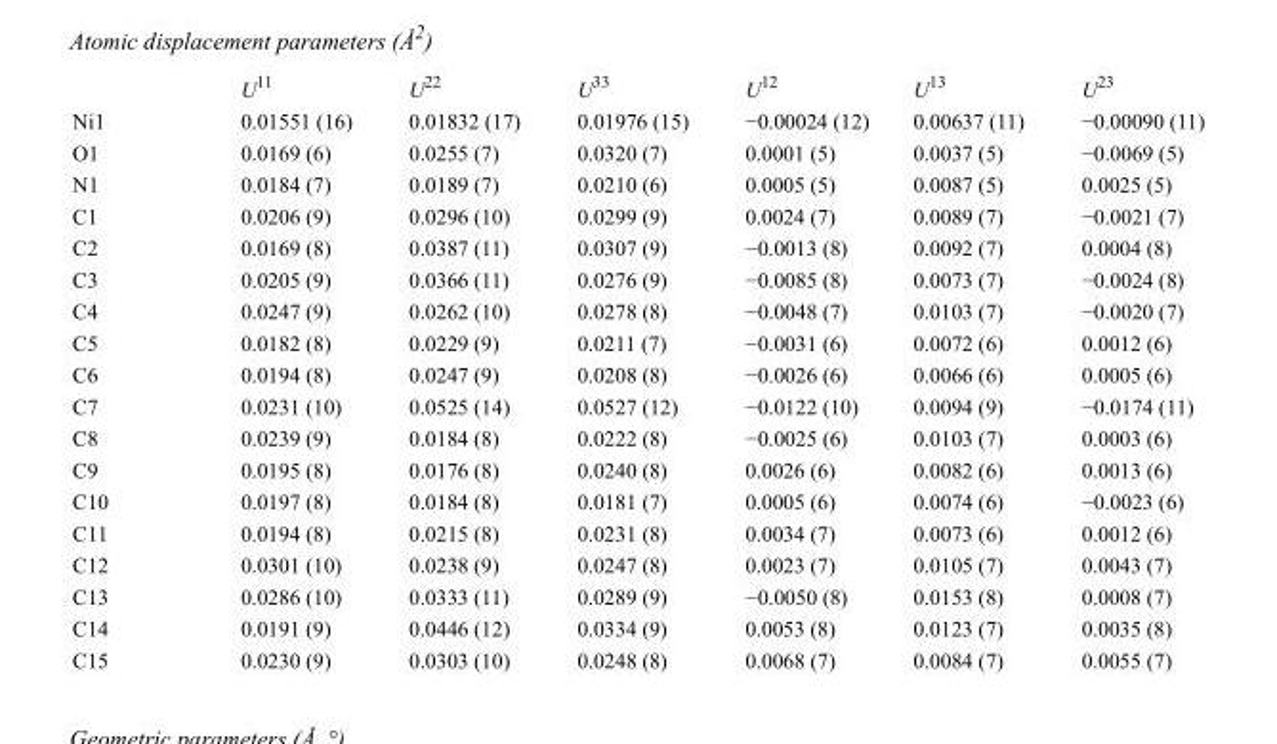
<table><thead><tr><td></td><td>U<sup>11</sup></td><td>U<sup>22</sup></td><td>U<sup>33</sup></td><td>U<sup>12</sup></td><td>U<sup>13</sup></td><td>U<sup>23</sup></td></tr></thead><tbody><tr><td>Ni1</td><td>0.01551 (16)</td><td>0.01832 (17)</td><td>0.01976 (15)</td><td>−0.00024 (12)</td><td>0.00637 (11)</td><td>−0.00090 (11)</td></tr><tr><td>O1</td><td>0.0169 (6)</td><td>0.0255 (7)</td><td>0.0320 (7)</td><td>0.0001 (5)</td><td>0.0037 (5)</td><td>−0.0069 (5)</td></tr><tr><td>N1</td><td>0.0184 (7)</td><td>0.0189 (7)</td><td>0.0210 (6)</td><td>0.0005 (5)</td><td>0.0087 (5)</td><td>0.0025 (5)</td></tr><tr><td>C1</td><td>0.0206 (9)</td><td>0.0296 (10)</td><td>0.0299 (9)</td><td>0.0024 (7)</td><td>0.0089 (7)</td><td>−0.0021 (7)</td></tr><tr><td>C2</td><td>0.0169 (8)</td><td>0.0387 (11)</td><td>0.0307 (9)</td><td>−0.0013 (8)</td><td>0.0092 (7)</td><td>0.0004 (8)</td></tr><tr><td>C3</td><td>0.0205 (9)</td><td>0.0366 (11)</td><td>0.0276 (9)</td><td>−0.0085 (8)</td><td>0.0073 (7)</td><td>−0.0024 (8)</td></tr><tr><td>C4</td><td>0.0247 (9)</td><td>0.0262 (10)</td><td>0.0278 (8)</td><td>−0.0048 (7)</td><td>0.0103 (7)</td><td>−0.0020 (7)</td></tr><tr><td>C5</td><td>0.0182 (8)</td><td>0.0229 (9)</td><td>0.0211 (7)</td><td>−0.0031 (6)</td><td>0.0072 (6)</td><td>0.0012 (6)</td></tr><tr><td>C6</td><td>0.0194 (8)</td><td>0.0247 (9)</td><td>0.0208 (8)</td><td>−0.0026 (6)</td><td>0.0066 (6)</td><td>0.0005 (6)</td></tr><tr><td>C7</td><td>0.0231 (10)</td><td>0.0525 (14)</td><td>0.0527 (12)</td><td>−0.0122 (10)</td><td>0.0094 (9)</td><td>−0.0174 (11)</td></tr><tr><td>C8</td><td>0.0239 (9)</td><td>0.0184 (8)</td><td>0.0222 (8)</td><td>−0.0025 (6)</td><td>0.0103 (7)</td><td>0.0003 (6)</td></tr><tr><td>C9</td><td>0.0195 (8)</td><td>0.0176 (8)</td><td>0.0240 (8)</td><td>0.0026 (6)</td><td>0.0082 (6)</td><td>0.0013 (6)</td></tr><tr><td>C10</td><td>0.0197 (8)</td><td>0.0184 (8)</td><td>0.0181 (7)</td><td>0.0005 (6)</td><td>0.0074 (6)</td><td>−0.0023 (6)</td></tr><tr><td>C11</td><td>0.0194 (8)</td><td>0.0215 (8)</td><td>0.0231 (8)</td><td>0.0034 (7)</td><td>0.0073 (6)</td><td>0.0012 (6)</td></tr><tr><td>C12</td><td>0.0301 (10)</td><td>0.0238 (9)</td><td>0.0247 (8)</td><td>0.0023 (7)</td><td>0.0105 (7)</td><td>0.0043 (7)</td></tr><tr><td>C13</td><td>0.0286 (10)</td><td>0.0333 (11)</td><td>0.0289 (9)</td><td>−0.0050 (8)</td><td>0.0153 (8)</td><td>0.0008 (7)</td></tr><tr><td>C14</td><td>0.0191 (9)</td><td>0.0446 (12)</td><td>0.0334 (9)</td><td>0.0053 (8)</td><td>0.0123 (7)</td><td>0.0035 (8)</td></tr><tr><td>C15</td><td>0.0230 (9)</td><td>0.0303 (10)</td><td>0.0248 (8)</td><td>0.0068 (7)</td><td>0.0084 (7)</td><td>0.0055 (7)</td></tr></tbody></table>